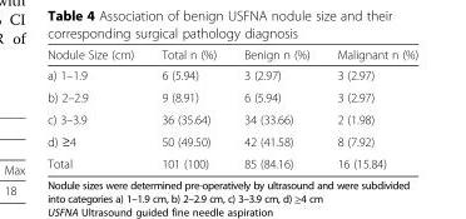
<table><thead><tr><td>Nodule Size (cm)</td><td>Total n (%)</td><td>Benign n (%)</td><td>Malignant n (%)</td></tr></thead><tbody><tr><td>a) 1–1.9</td><td>6 (5.94)</td><td>3 (2.97)</td><td>3 (2.97)</td></tr><tr><td>b) 2–2.9</td><td>9 (8.91)</td><td>6 (5.94)</td><td>3 (2.97)</td></tr><tr><td>c) 3–3.9</td><td>36 (35.64)</td><td>34 (33.66)</td><td>2 (1.98)</td></tr><tr><td>d) ≥4</td><td>50 (49.50)</td><td>42 (41.58)</td><td>8 (7.92)</td></tr><tr><td>Total</td><td>101 (100)</td><td>85 (84.16)</td><td>16 (15.84)</td></tr></tbody></table>